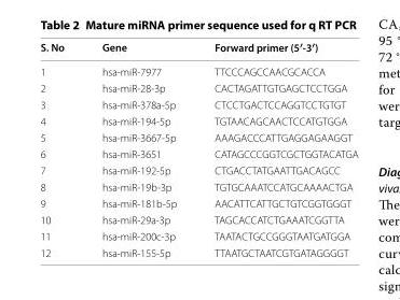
<table><thead><tr><td>S. No</td><td>Gene</td><td>Forward primer (5′‑3′)</td></tr></thead><tbody><tr><td>1</td><td>hsa-miR-7977</td><td>TTC CCA GCC AAC GCA CCA</td></tr><tr><td>2</td><td>hsa-miR-28-3p</td><td>CAC TAG ATT GTG AGC TCC TGGA</td></tr><tr><td>3</td><td>hsa-miR-378a-5p</td><td>CTC CTG ACT CCA GGT CCT GTGT</td></tr><tr><td>4</td><td>hsa-miR-194-5p</td><td>TGT AAC AGC AAC TCC ATG TGGA</td></tr><tr><td>5</td><td>hsa-miR-3667-5p</td><td>AAA GAC CCA TTG AGG AGA AGGT</td></tr><tr><td>6</td><td>hsa-miR-3651</td><td>CAT AGC CCG GTC GCT GGT ACA TGA</td></tr><tr><td>7</td><td>hsa-miR-192-5p</td><td>CTG ACC TAT GAA TTG ACA GCC</td></tr><tr><td>8</td><td>hsa-miR-19b-3p</td><td>TGT GCA AAT CCA TGC AAA ACTGA</td></tr><tr><td>9</td><td>hsa-miR-181b-5p</td><td>AAC ATT CAT TGC TGT CGG TGGGT</td></tr><tr><td>10</td><td>hsa-miR-29a-3p</td><td>TAG CAC CAT CTG AAA TCG GTTA</td></tr><tr><td>11</td><td>hsa-miR-200c-3p</td><td>TAA TAC TGC CGG GTA ATG ATGGA</td></tr><tr><td>12</td><td>hsa-miR-155-5p</td><td>TTA ATG CTA ATC GTG ATA GGGGT</td></tr></tbody></table>